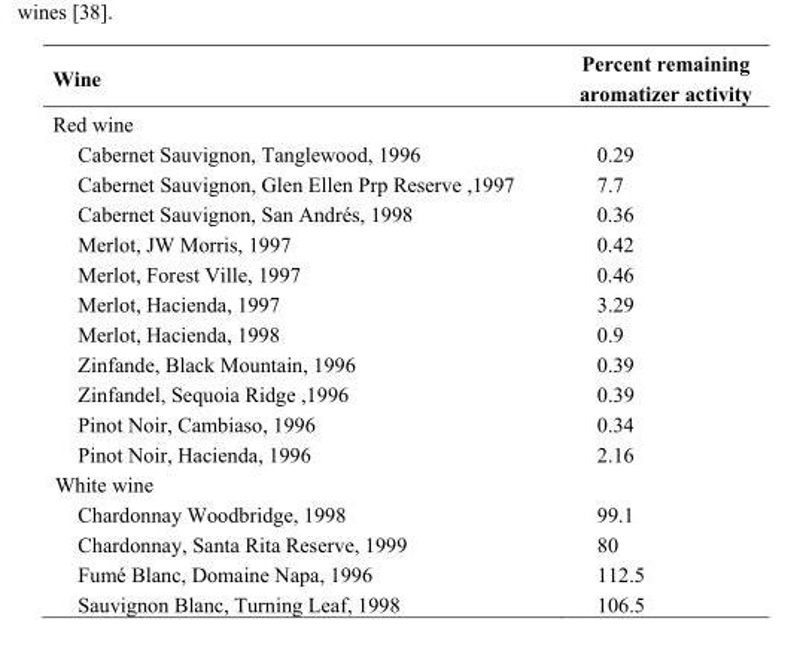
<table><thead><tr><td>Wine</td><td>Percent remaining aromatizer activity</td></tr></thead><tbody><tr><td colspan="2">Red wine</td></tr><tr><td>Cabernet Sauvignon, Tanglewood, 1996</td><td>0.29</td></tr><tr><td>Cabernet Sauvignon, Glen Ellen Prp Reserve ,1997</td><td>7.7</td></tr><tr><td>Cabernet Sauvignon, San Andrés, 1998</td><td>0.36</td></tr><tr><td>Merlot, JW Morris, 1997</td><td>0.42</td></tr><tr><td>Merlot, Forest Ville, 1997</td><td>0.46</td></tr><tr><td>Merlot, Hacienda, 1997</td><td>3.29</td></tr><tr><td>Merlot, Hacienda, 1998</td><td>0.9</td></tr><tr><td>Zinfande, Black Mountain, 1996</td><td>0.39</td></tr><tr><td>Zinfandel, Sequoia Ridge ,1996</td><td>0.39</td></tr><tr><td>Pinot Noir, Cambiaso, 1996</td><td>0.34</td></tr><tr><td>Pinot Noir, Hacienda, 1996</td><td>2.16</td></tr><tr><td colspan="2">White wine</td></tr><tr><td>Chardonnay Woodbridge, 1998</td><td>99.1</td></tr><tr><td>Chardonnay, Santa Rita Reserve, 1999</td><td>80</td></tr><tr><td>Fumé Blanc, Domaine Napa, 1996</td><td>112.5</td></tr><tr><td>Sauvignon Blanc, Turning Leaf, 1998</td><td>106.5</td></tr></tbody></table>